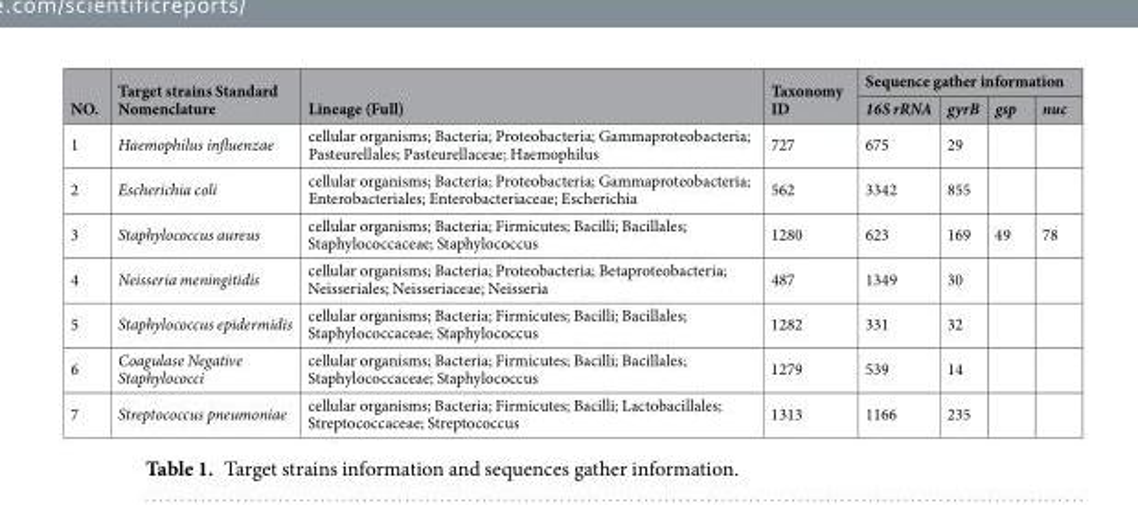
<table><thead><tr><td rowspan="2">NO.</td><td rowspan="2">Target strains Standard Nomenclature</td><td rowspan="2">Lineage (Full)</td><td rowspan="2">Taxonomy ID</td><td colspan="4">Sequence gather information</td></tr><tr><td>16S rRNA</td><td>gyrB</td><td>gsp</td><td>nuc</td></tr></thead><tbody><tr><td>1</td><td>Haemophilus influenzae</td><td>cellular organisms; Bacteria; Proteobacteria; Gammaproteobacteria; Pasteurellales; Pasteurellaceae; Haemophilus</td><td>727</td><td>675</td><td>29</td><td></td><td></td></tr><tr><td>2</td><td>Escherichia coli</td><td>cellular organisms; Bacteria; Proteobacteria; Gammaproteobacteria; Enterobacteriales; Enterobacteriaceae; Escherichia</td><td>562</td><td>3342</td><td>855</td><td></td><td></td></tr><tr><td>3</td><td>Staphylococcus aureus</td><td>cellular organisms; Bacteria; Firmicutes; Bacilli; Bacillales; Staphylococcaceae; Staphylococcus</td><td>1280</td><td>623</td><td>169</td><td>49</td><td>78</td></tr><tr><td>4</td><td>Neisseria meningitidis</td><td>cellular organisms; Bacteria; Proteobacteria; Betaproteobacteria; Neisseriales; Neisseriaceae; Neisseria</td><td>487</td><td>1349</td><td>30</td><td></td><td></td></tr><tr><td>5</td><td>Staphylococcus epidermidis</td><td>cellular organisms; Bacteria; Firmicutes; Bacilli; Bacillales; Staphylococcaceae; Staphylococcus</td><td>1282</td><td>331</td><td>32</td><td></td><td></td></tr><tr><td>6</td><td>Coagulase Negative Staphylococci</td><td>cellular organisms; Bacteria; Firmicutes; Bacilli; Bacillales; Staphylococcaceae; Staphylococcus</td><td>1279</td><td>539</td><td>14</td><td></td><td></td></tr><tr><td>7</td><td>Streptococcus pneumoniae</td><td>cellular organisms; Bacteria; Firmicutes; Bacilli; Lactobacillales; Streptococcaceae; Streptococcus</td><td>1313</td><td>1166</td><td>235</td><td></td><td></td></tr></tbody></table>